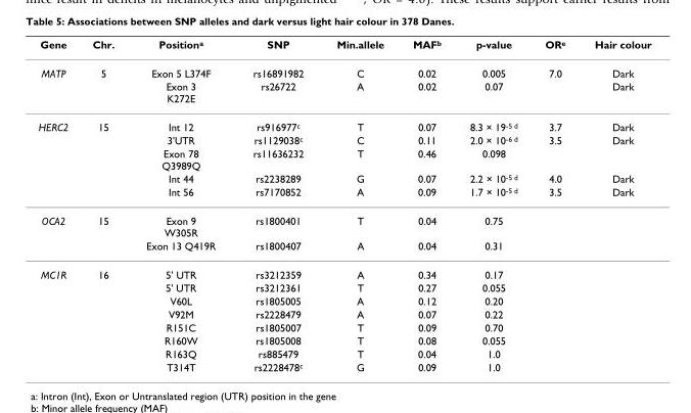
<table><thead><tr><td>Gene</td><td>Chr.</td><td>Position<sup>a</sup></td><td>SNP</td><td>Min.allele</td><td>MAF<sup>b</sup></td><td>p-value</td><td>OR<sup>e</sup></td><td>Hair colour</td></tr></thead><tbody><tr><td rowspan="2">MATP</td><td>5</td><td>Exon 5 L374F</td><td>rs16891982</td><td>C</td><td>0.02</td><td>0.005</td><td>7.0</td><td>Dark</td></tr><tr><td></td><td>Exon 3 K272E</td><td>rs26722</td><td>A</td><td>0.02</td><td>0.07</td><td></td><td>Dark</td></tr><tr><td rowspan="5">HERC2</td><td>15</td><td>Int 12</td><td>rs916977<sup>c</sup></td><td>T</td><td>0.07</td><td>8.3 × 19<sup>-5 d</sup></td><td>3.7</td><td>Dark</td></tr><tr><td></td><td>3&#x27;UTR</td><td>rs1129038<sup>c</sup></td><td>C</td><td>0.11</td><td>2.0 × 10<sup>-6 d</sup></td><td>3.5</td><td>Dark</td></tr><tr><td></td><td>Exon 78 Q3989Q</td><td>rs11636232</td><td>T</td><td>0.46</td><td>0.098</td><td></td><td></td></tr><tr><td></td><td>Int 44</td><td>rs2238289</td><td>G</td><td>0.07</td><td>2.2 × 10<sup>-5 d</sup></td><td>4.0</td><td>Dark</td></tr><tr><td></td><td>Int 56</td><td>rs7170852</td><td>A</td><td>0.09</td><td>1.7 × 10<sup>-5 d</sup></td><td>3.5</td><td>Dark</td></tr><tr><td rowspan="2">OCA2</td><td>15</td><td>Exon 9 W305R</td><td>rs1800401</td><td>T</td><td>0.04</td><td>0.75</td><td></td><td></td></tr><tr><td></td><td>Exon 13 Q419R</td><td>rs1800407</td><td>A</td><td>0.04</td><td>0.31</td><td></td><td></td></tr><tr><td rowspan="8">MC1R</td><td>16</td><td>5&#x27; UTR</td><td>rs3212359</td><td>A</td><td>0.34</td><td>0.17</td><td></td><td></td></tr><tr><td></td><td>5&#x27; UTR</td><td>rs3212361</td><td>T</td><td>0.27</td><td>0.055</td><td></td><td></td></tr><tr><td></td><td>V60L</td><td>rs1805005</td><td>A</td><td>0.12</td><td>0.20</td><td></td><td></td></tr><tr><td></td><td>V92M</td><td>rs2228479</td><td>A</td><td>0.07</td><td>0.22</td><td></td><td></td></tr><tr><td></td><td>R151C</td><td>rs1805007</td><td>T</td><td>0.09</td><td>0.70</td><td></td><td></td></tr><tr><td></td><td>R160W</td><td>rs1805008</td><td>T</td><td>0.08</td><td>0.055</td><td></td><td></td></tr><tr><td></td><td>R163Q</td><td>rs885479</td><td>T</td><td>0.04</td><td>1.0</td><td></td><td></td></tr><tr><td></td><td>T314T</td><td>rs2228478<sup>c</sup></td><td>G</td><td>0.09</td><td>1.0</td><td></td><td></td></tr></tbody></table>